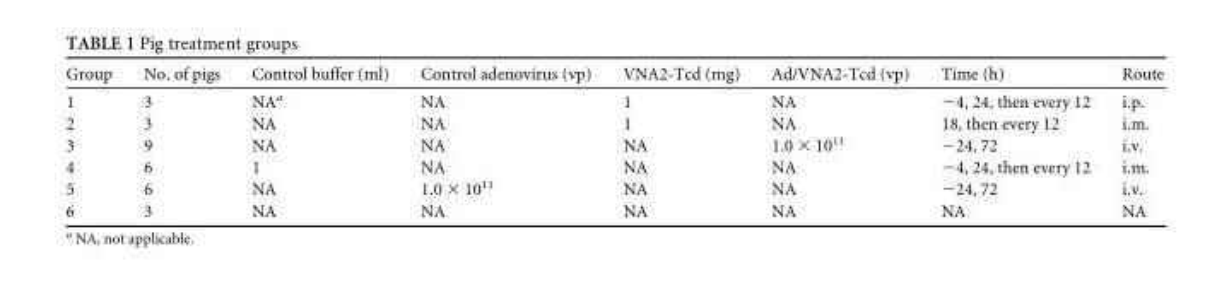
<table><thead><tr><td>Group</td><td>No. of pigs</td><td>Control buffer (ml)</td><td>Control adenovirus (vp)</td><td>VNA2-Tcd (mg)</td><td>Ad/VNA2-Tcd (vp)</td><td>Time (h)</td><td>Route</td></tr></thead><tbody><tr><td>1</td><td>3</td><td>NA<sup>a</sup></td><td>NA</td><td>1</td><td>NA</td><td>−4, 24, then every 12</td><td>i.p.</td></tr><tr><td>2</td><td>3</td><td>NA</td><td>NA</td><td>1</td><td>NA</td><td>18, then every 12</td><td>i.m.</td></tr><tr><td>3</td><td>9</td><td>NA</td><td>NA</td><td>NA</td><td>1.0 × 10<sup>11</sup></td><td>−24, 72</td><td>i.v.</td></tr><tr><td>4</td><td>6</td><td>1</td><td>NA</td><td>NA</td><td>NA</td><td>−4, 24, then every 12</td><td>i.m.</td></tr><tr><td>5</td><td>6</td><td>NA</td><td>1.0 × 10<sup>11</sup></td><td>NA</td><td>NA</td><td>−24, 72</td><td>i.v.</td></tr><tr><td>6</td><td>3</td><td>NA</td><td>NA</td><td>NA</td><td>NA</td><td>NA</td><td>NA</td></tr></tbody></table>